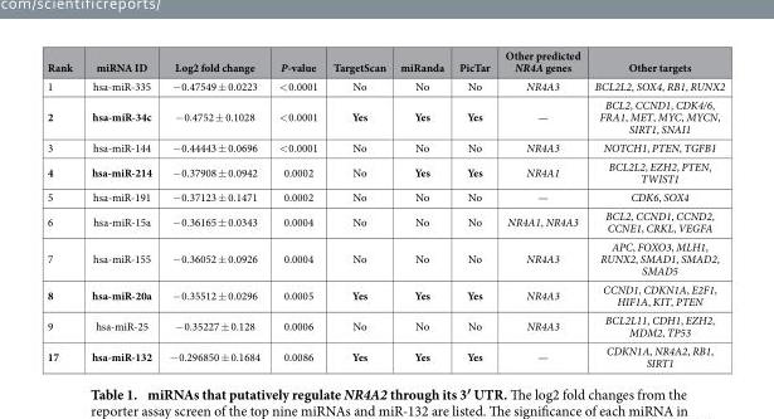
<table><thead><tr><td>Rank</td><td>miRNA ID</td><td>Log2 fold change</td><td>P-value</td><td>TargetScan</td><td>miRanda</td><td>PicTar</td><td>Other predicted NR4A genes</td><td>Other targets</td></tr></thead><tbody><tr><td>1</td><td>hsa-miR-335</td><td>− 0.47549 ± 0.0223</td><td>&lt; 0.0001</td><td>No</td><td>No</td><td>No</td><td>NR4A3</td><td>BCL2L2, SOX4, RB1, RUNX2</td></tr><tr><td>2</td><td>hsa-miR-34c</td><td>− 0.4752 ± 0.1028</td><td>&lt; 0.0001</td><td>Yes</td><td>Yes</td><td>Yes</td><td>—</td><td>BCL2, CCND1, CDK4/6, FRA1, MET, MYC, MYCN, SIRT1, SNAI1</td></tr><tr><td>3</td><td>hsa-miR-144</td><td>− 0.44443 ± 0.0696</td><td>&lt; 0.0001</td><td>No</td><td>No</td><td>No</td><td>NR4A3</td><td>NOTCH1, PTEN, TGFB1</td></tr><tr><td>4</td><td>hsa-miR-214</td><td>− 0.37908 ± 0.0942</td><td>0.0002</td><td>No</td><td>Yes</td><td>Yes</td><td>NR4A1</td><td>BCL2L2, EZH2, PTEN, TWIST1</td></tr><tr><td>5</td><td>hsa-miR-191</td><td>− 0.37123 ± 0.1471</td><td>0.0002</td><td>No</td><td>No</td><td>No</td><td>—</td><td>CDK6, SOX4</td></tr><tr><td>6</td><td>hsa-miR-15a</td><td>− 0.36165 ± 0.0343</td><td>0.0004</td><td>No</td><td>No</td><td>No</td><td>NR4A1, NR4A3</td><td>BCL2, CCND1, CCND2, CCNE1, CRKL, VEGFA</td></tr><tr><td>7</td><td>hsa-miR-155</td><td>− 0.36052 ± 0.0926</td><td>0.0004</td><td>No</td><td>No</td><td>No</td><td>NR4A3</td><td>APC, FOXO3, MLH1, RUNX2, SMAD1, SMAD2, SMAD5</td></tr><tr><td>8</td><td>hsa-miR-20a</td><td>− 0.35512 ± 0.0296</td><td>0.0005</td><td>Yes</td><td>Yes</td><td>Yes</td><td>NR4A3</td><td>CCND1, CDKN1A, E2F1, HIF1A, KIT, PTEN</td></tr><tr><td>9</td><td>hsa-miR-25</td><td>− 0.35227 ± 0.128</td><td>0.0006</td><td>No</td><td>No</td><td>No</td><td>NR4A3</td><td>BCL2L11, CDH1, EZH2, MDM2, TP53</td></tr><tr><td>17</td><td>hsa-miR-132</td><td>− 0.296850 ± 0.1684</td><td>0.0086</td><td>Yes</td><td>Yes</td><td>Yes</td><td>—</td><td>CDKN1A, NR4A2, RB1, SIRT1</td></tr></tbody></table>